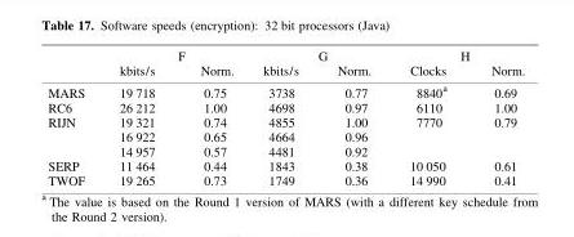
<table><thead><tr><td rowspan="2"></td><td colspan="2">F</td><td colspan="2">G</td><td colspan="2">H</td></tr><tr><td>kbits/s</td><td>Norm.</td><td>kbits/s</td><td>Norm.</td><td>Clocks</td><td>Norm.</td></tr></thead><tbody><tr><td>MARS</td><td>19 718</td><td>0.75</td><td>3738</td><td>0.77</td><td>8840<sup>a</sup></td><td>0.69</td></tr><tr><td>RC6</td><td>26 212</td><td>1.00</td><td>4698</td><td>0.97</td><td>6110</td><td>1.00</td></tr><tr><td rowspan="3">RIJN</td><td>19 321</td><td>0.74</td><td>4855</td><td>1.00</td><td>7770</td><td>0.79</td></tr><tr><td>16 922</td><td>0.65</td><td>4664</td><td>0.96</td><td></td><td></td></tr><tr><td>14 957</td><td>0.57</td><td>4481</td><td>0.92</td><td></td><td></td></tr><tr><td>SERP</td><td>11 464</td><td>0.44</td><td>1843</td><td>0.38</td><td>10 050</td><td>0.61</td></tr><tr><td>TWOF</td><td>19 265</td><td>0.73</td><td>1749</td><td>0.36</td><td>14 990</td><td>0.41</td></tr></tbody></table>